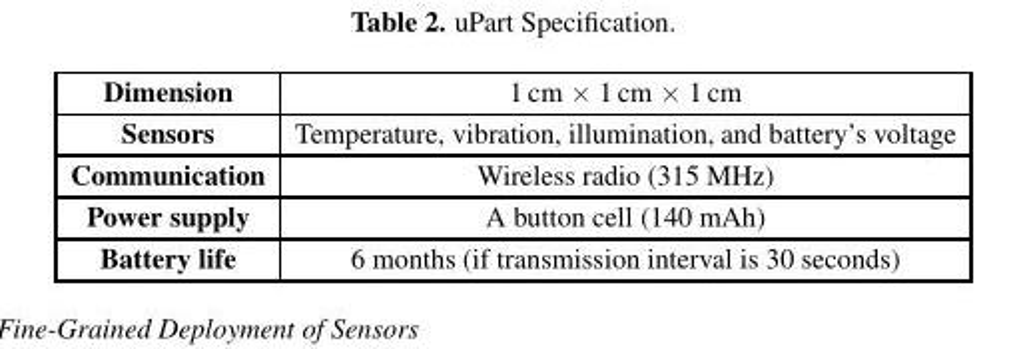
<table><tbody><tr><td>Dimension</td><td>1 cm × 1 cm × 1 cm</td></tr><tr><td>Sensors</td><td>Temperature, vibration, illumination, and battery’s voltage</td></tr><tr><td>Communication</td><td>Wireless radio (315 MHz)</td></tr><tr><td>Power supply</td><td>A button cell (140 mAh)</td></tr><tr><td>Battery life</td><td>6 months (if transmission interval is 30 seconds)</td></tr></tbody></table>